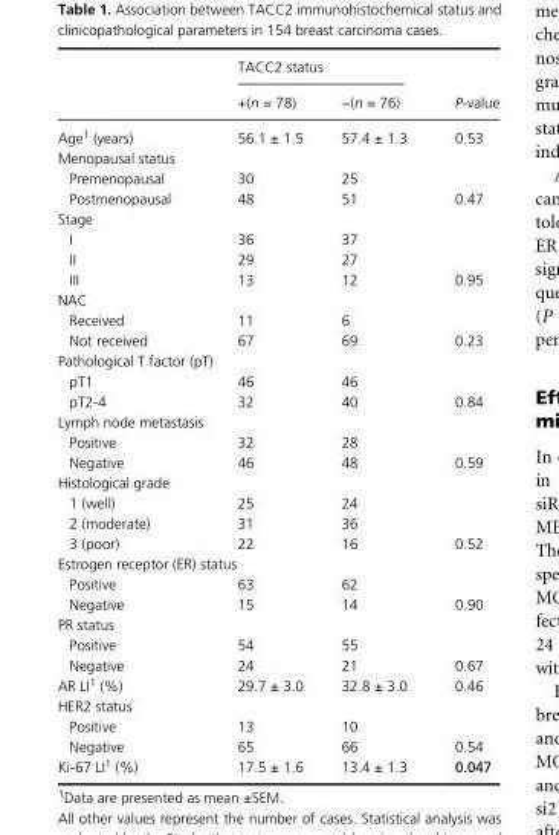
<table><thead><tr><td rowspan="2"></td><td colspan="2">TACC2 status</td><td rowspan="2">P- value</td></tr><tr><td>+(n = 78)</td><td>−(n = 76)</td></tr></thead><tbody><tr><td>Age1 (years)</td><td>56.1 ± 1.5</td><td>57.4 ± 1.3</td><td>0.53</td></tr><tr><td colspan="4">Menopausal status</td></tr><tr><td>Premenopausal</td><td>30</td><td>25</td><td></td></tr><tr><td>Postmenopausal</td><td>48</td><td>51</td><td>0.47</td></tr><tr><td colspan="4">Stage</td></tr><tr><td>I</td><td>36</td><td>37</td><td></td></tr><tr><td>II</td><td>29</td><td>27</td><td></td></tr><tr><td>III</td><td>13</td><td>12</td><td>0.95</td></tr><tr><td colspan="4">NAC</td></tr><tr><td>Received</td><td>11</td><td>6</td><td></td></tr><tr><td>Not received</td><td>67</td><td>69</td><td>0.23</td></tr><tr><td colspan="4">Pathological T factor (pT)</td></tr><tr><td>pT1</td><td>46</td><td>46</td><td></td></tr><tr><td>pT2- 4</td><td>32</td><td>40</td><td>0.84</td></tr><tr><td colspan="4">Lymph node metastasis</td></tr><tr><td>Positive</td><td>32</td><td>28</td><td></td></tr><tr><td>Negative</td><td>46</td><td>48</td><td>0.59</td></tr><tr><td colspan="4">Histological grade</td></tr><tr><td>1 (well)</td><td>25</td><td>24</td><td></td></tr><tr><td>2 (moderate)</td><td>31</td><td>36</td><td></td></tr><tr><td>3 (poor)</td><td>22</td><td>16</td><td>0.52</td></tr><tr><td colspan="4">Estrogen receptor (ER) status</td></tr><tr><td>Positive</td><td>63</td><td>62</td><td></td></tr><tr><td>Negative</td><td>15</td><td>14</td><td>0.90</td></tr><tr><td colspan="4">PR status</td></tr><tr><td>Positive</td><td>54</td><td>55</td><td></td></tr><tr><td>Negative</td><td>24</td><td>21</td><td>0.67</td></tr><tr><td>AR LI1 (%)</td><td>29.7 ± 3.0</td><td>32.8 ± 3.0</td><td>0.46</td></tr><tr><td colspan="4">HER2 status</td></tr><tr><td>Positive</td><td>13</td><td>10</td><td></td></tr><tr><td>Negative</td><td>65</td><td>66</td><td>0.54</td></tr><tr><td>Ki- 67 LI1 (%)</td><td>17.5 ± 1.6</td><td>13.4 ± 1.3</td><td>0.047</td></tr></tbody></table>